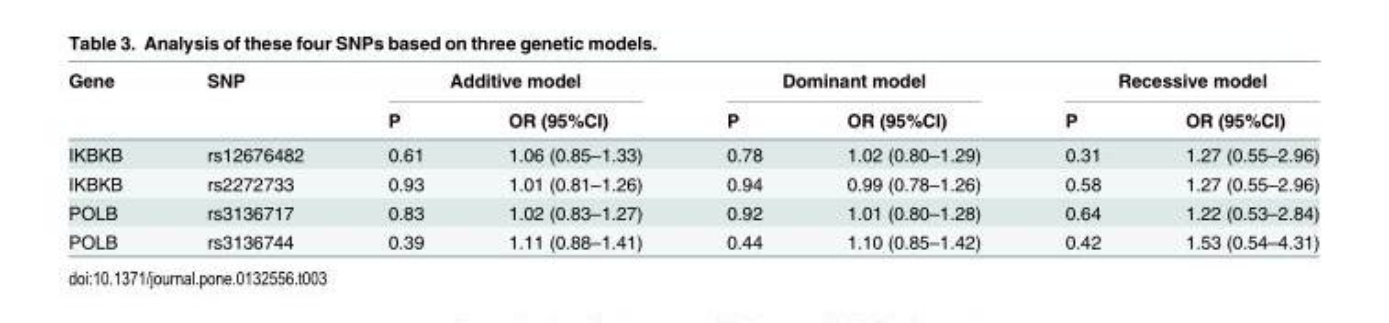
<table><thead><tr><td rowspan="2">Gene</td><td rowspan="2">SNP</td><td colspan="2">Additive model</td><td colspan="2">Dominant model</td><td colspan="2">Recessive model</td></tr><tr><td>P</td><td>OR (95%CI)</td><td>P</td><td>OR (95%CI)</td><td>P</td><td>OR (95%CI)</td></tr></thead><tbody><tr><td>IKBKB</td><td>rs12676482</td><td>0.61</td><td>1.06 (0.85–1.33)</td><td>0.78</td><td>1.02 (0.80–1.29)</td><td>0.31</td><td>1.27 (0.55–2.96)</td></tr><tr><td>IKBKB</td><td>rs2272733</td><td>0.93</td><td>1.01 (0.81–1.26)</td><td>0.94</td><td>0.99 (0.78–1.26)</td><td>0.58</td><td>1.27 (0.55–2.96)</td></tr><tr><td>POLB</td><td>rs3136717</td><td>0.83</td><td>1.02 (0.83–1.27)</td><td>0.92</td><td>1.01 (0.80–1.28)</td><td>0.64</td><td>1.22 (0.53–2.84)</td></tr><tr><td>POLB</td><td>rs3136744</td><td>0.39</td><td>1.11 (0.88–1.41)</td><td>0.44</td><td>1.10 (0.85–1.42)</td><td>0.42</td><td>1.53 (0.54–4.31)</td></tr></tbody></table>